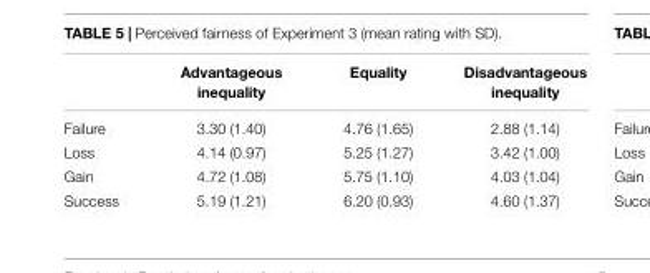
<table><thead><tr><td></td><td>Advantageous inequality</td><td>Equality</td><td>Disadvantageous inequality</td></tr></thead><tbody><tr><td>Failure</td><td>3.30 (1.40)</td><td>4.76 (1.65)</td><td>2.88 (1.14)</td></tr><tr><td>Loss</td><td>4.14 (0.97)</td><td>5.25 (1.27)</td><td>3.42 (1.00)</td></tr><tr><td>Gain</td><td>4.72 (1.08)</td><td>5.75 (1.10)</td><td>4.03 (1.04)</td></tr><tr><td>Success</td><td>5.19 (1.21)</td><td>6.20 (0.93)</td><td>4.60 (1.37)</td></tr></tbody></table>